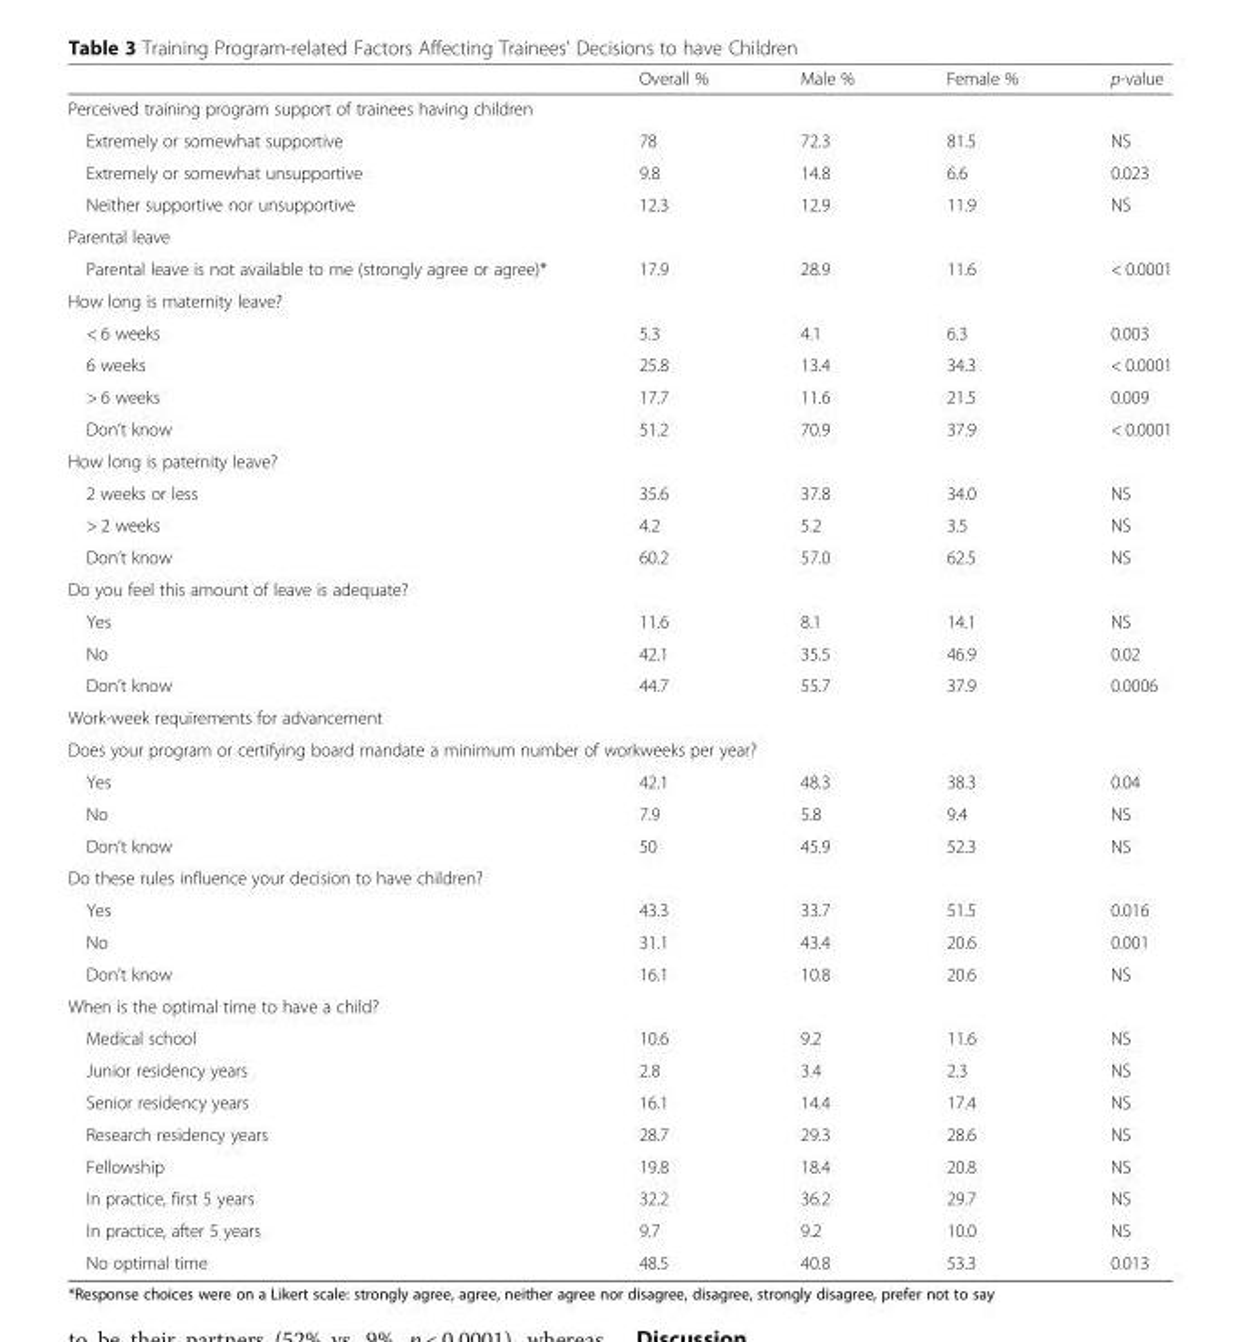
<table><thead><tr><td></td><td>Overall %</td><td>Male %</td><td>Female %</td><td>p-value</td></tr></thead><tbody><tr><td colspan="5">Perceived training program support of trainees having children</td></tr><tr><td>Extremely or somewhat supportive</td><td>78</td><td>72.3</td><td>81.5</td><td>NS</td></tr><tr><td>Extremely or somewhat unsupportive</td><td>9.8</td><td>14.8</td><td>6.6</td><td>0.023</td></tr><tr><td>Neither supportive nor unsupportive</td><td>12.3</td><td>12.9</td><td>11.9</td><td>NS</td></tr><tr><td colspan="5">Parental leave</td></tr><tr><td>Parental leave is not available to me (strongly agree or agree)*</td><td>17.9</td><td>28.9</td><td>11.6</td><td>&lt; 0.0001</td></tr><tr><td colspan="5">How long is maternity leave?</td></tr><tr><td>&lt; 6 weeks</td><td>5.3</td><td>4.1</td><td>6.3</td><td>0.003</td></tr><tr><td>6 weeks</td><td>25.8</td><td>13.4</td><td>34.3</td><td>&lt; 0.0001</td></tr><tr><td>&gt; 6 weeks</td><td>17.7</td><td>11.6</td><td>21.5</td><td>0.009</td></tr><tr><td>Don’t know</td><td>51.2</td><td>70.9</td><td>37.9</td><td>&lt; 0.0001</td></tr><tr><td colspan="5">How long is paternity leave?</td></tr><tr><td>2 weeks or less</td><td>35.6</td><td>37.8</td><td>34.0</td><td>NS</td></tr><tr><td>&gt; 2 weeks</td><td>4.2</td><td>5.2</td><td>3.5</td><td>NS</td></tr><tr><td>Don’t know</td><td>60.2</td><td>57.0</td><td>62.5</td><td>NS</td></tr><tr><td colspan="5">Do you feel this amount of leave is adequate?</td></tr><tr><td>Yes</td><td>11.6</td><td>8.1</td><td>14.1</td><td>NS</td></tr><tr><td>No</td><td>42.1</td><td>35.5</td><td>46.9</td><td>0.02</td></tr><tr><td>Don’t know</td><td>44.7</td><td>55.7</td><td>37.9</td><td>0.0006</td></tr><tr><td colspan="5">Work-week requirements for advancement</td></tr><tr><td colspan="5">Does your program or certifying board mandate a minimum number of workweeks per year?</td></tr><tr><td>Yes</td><td>42.1</td><td>48.3</td><td>38.3</td><td>0.04</td></tr><tr><td>No</td><td>7.9</td><td>5.8</td><td>9.4</td><td>NS</td></tr><tr><td>Don’t know</td><td>50</td><td>45.9</td><td>52.3</td><td>NS</td></tr><tr><td colspan="5">Do these rules influence your decision to have children?</td></tr><tr><td>Yes</td><td>43.3</td><td>33.7</td><td>51.5</td><td>0.016</td></tr><tr><td>No</td><td>31.1</td><td>43.4</td><td>20.6</td><td>0.001</td></tr><tr><td>Don’t know</td><td>16.1</td><td>10.8</td><td>20.6</td><td>NS</td></tr><tr><td colspan="5">When is the optimal time to have a child?</td></tr><tr><td>Medical school</td><td>10.6</td><td>9.2</td><td>11.6</td><td>NS</td></tr><tr><td>Junior residency years</td><td>2.8</td><td>3.4</td><td>2.3</td><td>NS</td></tr><tr><td>Senior residency years</td><td>16.1</td><td>14.4</td><td>17.4</td><td>NS</td></tr><tr><td>Research residency years</td><td>28.7</td><td>29.3</td><td>28.6</td><td>NS</td></tr><tr><td>Fellowship</td><td>19.8</td><td>18.4</td><td>20.8</td><td>NS</td></tr><tr><td>In practice, first 5 years</td><td>32.2</td><td>36.2</td><td>29.7</td><td>NS</td></tr><tr><td>In practice, after 5 years</td><td>9.7</td><td>9.2</td><td>10.0</td><td>NS</td></tr><tr><td>No optimal time</td><td>48.5</td><td>40.8</td><td>53.3</td><td>0.013</td></tr></tbody></table>